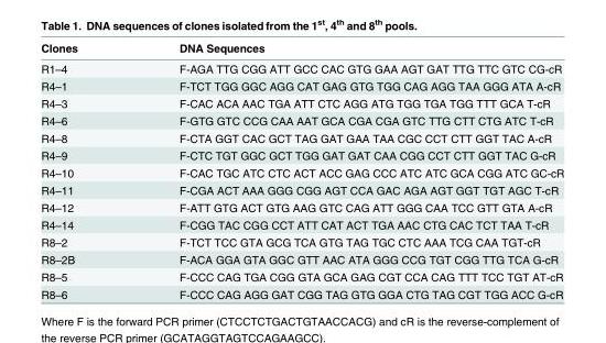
<table><thead><tr><td>Clones</td><td>DNA Sequences</td></tr></thead><tbody><tr><td>R1–4</td><td>F-AGA TTG CGG ATT GCC CAC GTG GAA AGT GAT TTG TTC GTC CG-cR</td></tr><tr><td>R4–1</td><td>F-TCT TGG GGC AGG CAT GAG GTG TGG CAG AGG TAA GGG ATA A-cR</td></tr><tr><td>R4–3</td><td>F-CAC ACA AAC TGA ATT CTC AGG ATG TGG TGA TGG TTT GCA T-cR</td></tr><tr><td>R4–6</td><td>F-GTG GTC CCG CAA AAT GCA CGA CGA GTC TTG CTT CTG ATC T-cR</td></tr><tr><td>R4–8</td><td>F-CTA GGT CAC GCT TAG GAT GAA TAA CGC CCT CTT GGT TAC A-cR</td></tr><tr><td>R4–9</td><td>F-CTC TGT GGC GCT TGG GAT GAT CAA CGG CCT CTT GGT TAC G-cR</td></tr><tr><td>R4–10</td><td>F-CAC TGC ATC CTC ACT ACC GAG CCC ATC ATC GCA CGG ATC GC-cR</td></tr><tr><td>R4–11</td><td>F-CGA ACT AAA GGG CGG AGT CCA GAC AGA AGT GGT TGT AGC T-cR</td></tr><tr><td>R4–12</td><td>F-ATT GTG ACT GTG AAG GTC CAG ATT GGG CAA TCC GTT GTA A-cR</td></tr><tr><td>R4–14</td><td>F-CGG TAC CGG CCT ATT CAT ACT TGA AAC CTG CAC TCT TAA T-cR</td></tr><tr><td>R8–2</td><td>F-TCT TCC GTA GCG TCA GTG TAG TGC CTC AAA TCG CAA TGT-cR</td></tr><tr><td>R8–2B</td><td>F-ACA GGA GTA GGC GTT AAC ATA GGG CCG TGT CGG TTG TCA G-cR</td></tr><tr><td>R8–5</td><td>F-CCC CAG TGA CGG GTA GCA GAG CGT CCA CAG TTT TCC TGT AT-cR</td></tr><tr><td>R8–6</td><td>F-CCC CAG AGG GAT CGG TAG GTG GGA CTG TAG CGT TGG ACC G-cR</td></tr></tbody></table>